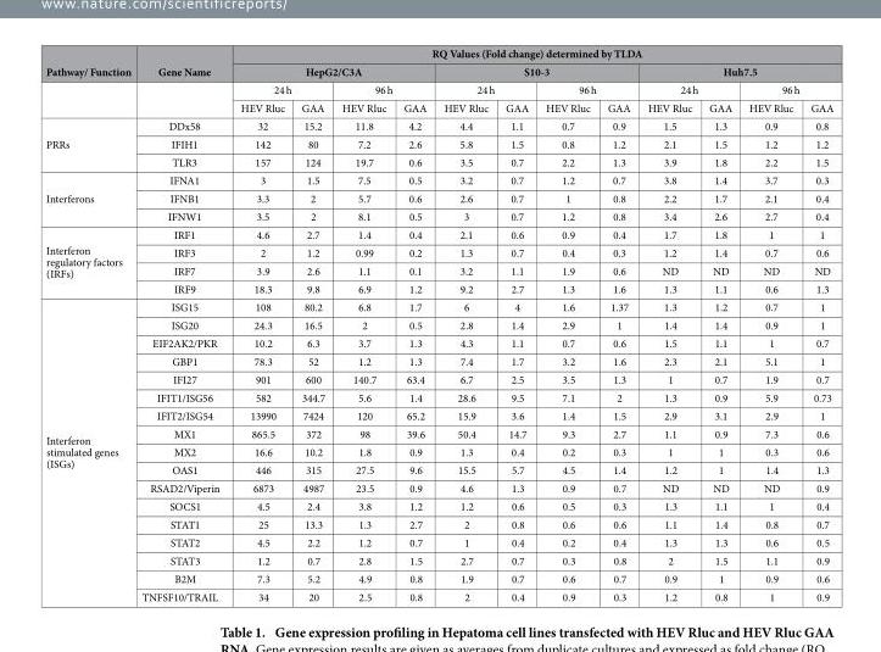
<table><thead><tr><td rowspan="4">Pathway/ Function</td><td rowspan="4">Gene Name</td><td colspan="12">RQ Values (Fold change) determined by TLDA</td></tr><tr><td colspan="4">HepG2/C3A</td><td colspan="4">S10-3</td><td colspan="4">Huh7.5</td></tr><tr><td colspan="2">24 h</td><td colspan="2">96 h</td><td colspan="2">24 h</td><td colspan="2">96 h</td><td colspan="2">24 h</td><td colspan="2">96 h</td></tr><tr><td>HEV Rluc</td><td>GAA</td><td>HEV Rluc</td><td>GAA</td><td>HEV Rluc</td><td>GAA</td><td>HEV Rluc</td><td>GAA</td><td>HEV Rluc</td><td>GAA</td><td>HEV Rluc</td><td>GAA</td></tr></thead><tbody><tr><td rowspan="3">PRRs</td><td>DDx58</td><td>32</td><td>15.2</td><td>11.8</td><td>4.2</td><td>4.4</td><td>1.1</td><td>0.7</td><td>0.9</td><td>1.5</td><td>1.3</td><td>0.9</td><td>0.8</td></tr><tr><td>IFIH1</td><td>142</td><td>80</td><td>7.2</td><td>2.6</td><td>5.8</td><td>1.5</td><td>0.8</td><td>1.2</td><td>2.1</td><td>1.5</td><td>1.2</td><td>1.2</td></tr><tr><td>TLR3</td><td>157</td><td>124</td><td>19.7</td><td>0.6</td><td>3.5</td><td>0.7</td><td>2.2</td><td>1.3</td><td>3.9</td><td>1.8</td><td>2.2</td><td>1.5</td></tr><tr><td rowspan="3">Interferons</td><td>IFNA1</td><td>3</td><td>1.5</td><td>7.5</td><td>0.5</td><td>3.2</td><td>0.7</td><td>1.2</td><td>0.7</td><td>3.8</td><td>1.4</td><td>3.7</td><td>0.3</td></tr><tr><td>IFNB1</td><td>3.3</td><td>2</td><td>5.7</td><td>0.6</td><td>2.6</td><td>0.7</td><td>1</td><td>0.8</td><td>2.2</td><td>1.7</td><td>2.1</td><td>0.4</td></tr><tr><td>IFNW1</td><td>3.5</td><td>2</td><td>8.1</td><td>0.5</td><td>3</td><td>0.7</td><td>1.2</td><td>0.8</td><td>3.4</td><td>2.6</td><td>2.7</td><td>0.4</td></tr><tr><td rowspan="4">Interferon regulatory factors (IRFs)</td><td>IRF1</td><td>4.6</td><td>2.7</td><td>1.4</td><td>0.4</td><td>2.1</td><td>0.6</td><td>0.9</td><td>0.4</td><td>1.7</td><td>1.8</td><td>1</td><td>1</td></tr><tr><td>IRF3</td><td>2</td><td>1.2</td><td>0.99</td><td>0.2</td><td>1.3</td><td>0.7</td><td>0.4</td><td>0.3</td><td>1.2</td><td>1.4</td><td>0.7</td><td>0.6</td></tr><tr><td>IRF7</td><td>3.9</td><td>2.6</td><td>1.1</td><td>0.1</td><td>3.2</td><td>1.1</td><td>1.9</td><td>0.6</td><td>ND</td><td>ND</td><td>ND</td><td>ND</td></tr><tr><td>IRF9</td><td>18.3</td><td>9.8</td><td>6.9</td><td>1.2</td><td>9.2</td><td>2.7</td><td>1.3</td><td>1.6</td><td>1.3</td><td>1.1</td><td>0.6</td><td>1.3</td></tr><tr><td rowspan="17">Interferon stimulated genes (ISGs)</td><td>ISG15</td><td>108</td><td>80.2</td><td>6.8</td><td>1.7</td><td>6</td><td>4</td><td>1.6</td><td>1.37</td><td>1.3</td><td>1.2</td><td>0.7</td><td>1</td></tr><tr><td>ISG20</td><td>24.3</td><td>16.5</td><td>2</td><td>0.5</td><td>2.8</td><td>1.4</td><td>2.9</td><td>1</td><td>1.4</td><td>1.4</td><td>0.9</td><td>1</td></tr><tr><td>EIF2AK2/PKR</td><td>10.2</td><td>6.3</td><td>3.7</td><td>1.3</td><td>4.3</td><td>1.1</td><td>0.7</td><td>0.6</td><td>1.5</td><td>1.1</td><td>1</td><td>0.7</td></tr><tr><td>GBP1</td><td>78.3</td><td>52</td><td>1.2</td><td>1.3</td><td>7.4</td><td>1.7</td><td>3.2</td><td>1.6</td><td>2.3</td><td>2.1</td><td>5.1</td><td>1</td></tr><tr><td>IFI27</td><td>901</td><td>600</td><td>140.7</td><td>63.4</td><td>6.7</td><td>2.5</td><td>3.5</td><td>1.3</td><td>1</td><td>0.7</td><td>1.9</td><td>0.7</td></tr><tr><td>IFIT1/ISG56</td><td>582</td><td>344.7</td><td>5.6</td><td>1.4</td><td>28.6</td><td>9.5</td><td>7.1</td><td>2</td><td>1.3</td><td>0.9</td><td>5.9</td><td>0.73</td></tr><tr><td>IFIT2/ISG54</td><td>13990</td><td>7424</td><td>120</td><td>65.2</td><td>15.9</td><td>3.6</td><td>1.4</td><td>1.5</td><td>2.9</td><td>3.1</td><td>2.9</td><td>1</td></tr><tr><td>MX1</td><td>865.5</td><td>372</td><td>98</td><td>39.6</td><td>50.4</td><td>14.7</td><td>9.3</td><td>2.7</td><td>1.1</td><td>0.9</td><td>7.3</td><td>0.6</td></tr><tr><td>MX2</td><td>16.6</td><td>10.2</td><td>1.8</td><td>0.9</td><td>1.3</td><td>0.4</td><td>0.2</td><td>0.3</td><td>1</td><td>1</td><td>0.3</td><td>0.6</td></tr><tr><td>OAS1</td><td>446</td><td>315</td><td>27.5</td><td>9.6</td><td>15.5</td><td>5.7</td><td>4.5</td><td>1.4</td><td>1.2</td><td>1</td><td>1.4</td><td>1.3</td></tr><tr><td>RSAD2/Viperin</td><td>6873</td><td>4987</td><td>23.5</td><td>0.9</td><td>4.6</td><td>1.3</td><td>0.9</td><td>0.7</td><td>ND</td><td>ND</td><td>ND</td><td>0.9</td></tr><tr><td>SOCS1</td><td>4.5</td><td>2.4</td><td>3.8</td><td>1.2</td><td>1.2</td><td>0.6</td><td>0.5</td><td>0.3</td><td>1.3</td><td>1.1</td><td>1</td><td>0.4</td></tr><tr><td>STAT1</td><td>25</td><td>13.3</td><td>1.3</td><td>2.7</td><td>2</td><td>0.8</td><td>0.6</td><td>0.6</td><td>1.1</td><td>1.4</td><td>0.8</td><td>0.7</td></tr><tr><td>STAT2</td><td>4.5</td><td>2.2</td><td>1.2</td><td>0.7</td><td>1</td><td>0.4</td><td>0.2</td><td>0.4</td><td>1.3</td><td>1.3</td><td>0.6</td><td>0.5</td></tr><tr><td>STAT3</td><td>1.2</td><td>0.7</td><td>2.8</td><td>1.5</td><td>2.7</td><td>0.7</td><td>0.3</td><td>0.8</td><td>2</td><td>1.5</td><td>1.1</td><td>0.9</td></tr><tr><td>B2M</td><td>7.3</td><td>5.2</td><td>4.9</td><td>0.8</td><td>1.9</td><td>0.7</td><td>0.6</td><td>0.7</td><td>0.9</td><td>1</td><td>0.9</td><td>0.6</td></tr><tr><td>TNFSF10/TRAIL</td><td>34</td><td>20</td><td>2.5</td><td>0.8</td><td>2</td><td>0.4</td><td>0.9</td><td>0.3</td><td>1.2</td><td>0.8</td><td>1</td><td>0.9</td></tr></tbody></table>